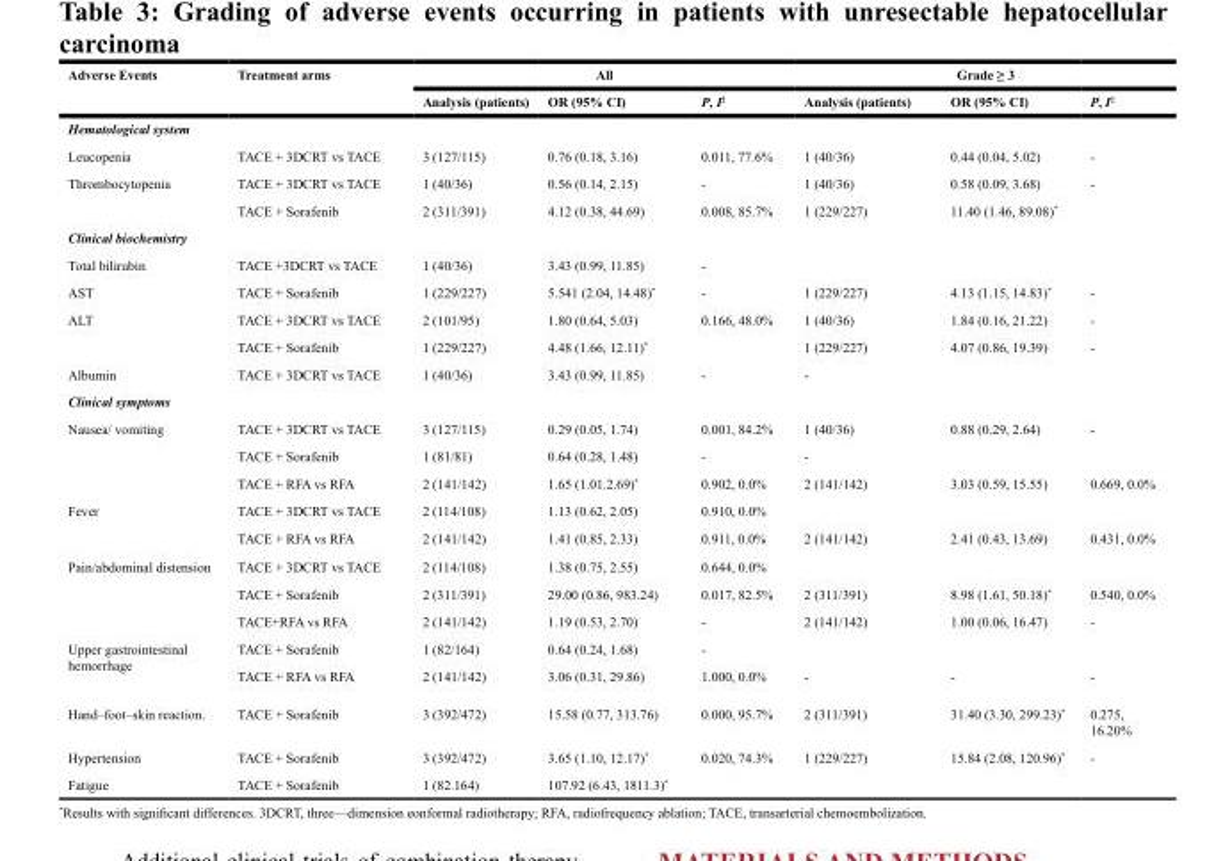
<table><thead><tr><td rowspan="2">Adverse Events</td><td rowspan="2">Treatment arms</td><td colspan="3">All</td><td colspan="3">Grade ≥ 3</td></tr><tr><td>Analysis (patients)</td><td>OR (95% CI)</td><td>P, I<sup>2</sup></td><td>Analysis (patients)</td><td>OR (95% CI)</td><td>P, I<sup>2</sup></td></tr></thead><tbody><tr><td colspan="8">Hematological system</td></tr><tr><td>Leucopenia</td><td>TACE + 3DCRT vs TACE</td><td>3 (127/115)</td><td>0.76 (0.18, 3.16)</td><td>0.011, 77.6%</td><td>1 (40/36)</td><td>0.44 (0.04, 5.02)</td><td>-</td></tr><tr><td rowspan="2">Thrombocytopenia</td><td>TACE + 3DCRT vs TACE</td><td>1 (40/36)</td><td>0.56 (0.14, 2.15)</td><td>-</td><td>1 (40/36)</td><td>0.58 (0.09, 3.68)</td><td>-</td></tr><tr><td>TACE + Sorafenib</td><td>2 (311/391)</td><td>4.12 (0.38, 44.69)</td><td>0.008, 85.7%</td><td>1 (229/227)</td><td>11.40 (1.46, 89.08)*</td><td></td></tr><tr><td colspan="8">Clinical biochemistry</td></tr><tr><td>Total bilirubin</td><td>TACE +3DCRT vs TACE</td><td>1 (40/36)</td><td>3.43 (0.99, 11.85)</td><td>-</td><td></td><td></td><td></td></tr><tr><td>AST</td><td>TACE + Sorafenib</td><td>1 (229/227)</td><td>5.541 (2.04, 14.48)*</td><td>-</td><td>1 (229/227)</td><td>4.13 (1.15, 14.83)*</td><td>-</td></tr><tr><td rowspan="2">ALT</td><td>TACE + 3DCRT vs TACE</td><td>2 (101/95)</td><td>1.80 (0.64, 5.03)</td><td>0.166, 48.0%</td><td>1 (40/36)</td><td>1.84 (0.16, 21.22)</td><td>-</td></tr><tr><td>TACE + Sorafenib</td><td>1 (229/227)</td><td>4.48 (1.66, 12.11)*</td><td></td><td>1 (229/227)</td><td>4.07 (0.86, 19.39)</td><td>-</td></tr><tr><td>Albumin</td><td>TACE + 3DCRT vs TACE</td><td>1 (40/36)</td><td>3.43 (0.99, 11.85)</td><td>-</td><td>-</td><td></td><td></td></tr><tr><td colspan="8">Clinical symptoms</td></tr><tr><td rowspan="3">Nausea/ vomiting</td><td>TACE + 3DCRT vs TACE</td><td>3 (127/115)</td><td>0.29 (0.05, 1.74)</td><td>0.001, 84.2%</td><td>1 (40/36)</td><td>0.88 (0.29, 2.64)</td><td>-</td></tr><tr><td>TACE + Sorafenib</td><td>1 (81/81)</td><td>0.64 (0.28, 1.48)</td><td>-</td><td>-</td><td></td><td></td></tr><tr><td>TACE + RFA vs RFA</td><td>2 (141/142)</td><td>1.65 (1.01.2.69)*</td><td>0.902, 0.0%</td><td>2 (141/142)</td><td>3.03 (0.59, 15.55)</td><td>0.669, 0.0%</td></tr><tr><td rowspan="2">Fever</td><td>TACE + 3DCRT vs TACE</td><td>2 (114/108)</td><td>1.13 (0.62, 2.05)</td><td>0.910, 0.0%</td><td></td><td></td><td></td></tr><tr><td>TACE + RFA vs RFA</td><td>2 (141/142)</td><td>1.41 (0.85, 2.33)</td><td>0.911, 0.0%</td><td>2 (141/142)</td><td>2.41 (0.43, 13.69)</td><td>0.431, 0.0%</td></tr><tr><td rowspan="3">Pain/abdominal distension</td><td>TACE + 3DCRT vs TACE</td><td>2 (114/108)</td><td>1.38 (0.75, 2.55)</td><td>0.644, 0.0%</td><td></td><td></td><td></td></tr><tr><td>TACE + Sorafenib</td><td>2 (311/391)</td><td>29.00 (0.86, 983.24)</td><td>0.017, 82.5%</td><td>2 (311/391)</td><td>8.98 (1.61, 50.18)*</td><td>0.540, 0.0%</td></tr><tr><td>TACE+RFA vs RFA</td><td>2 (141/142)</td><td>1.19 (0.53, 2.70)</td><td>-</td><td>2 (141/142)</td><td>1.00 (0.06, 16.47)</td><td>-</td></tr><tr><td rowspan="2">Upper gastrointestinal hemorrhage</td><td>TACE + Sorafenib</td><td>1 (82/164)</td><td>0.64 (0.24, 1.68)</td><td>-</td><td></td><td></td><td></td></tr><tr><td>TACE + RFA vs RFA</td><td>2 (141/142)</td><td>3.06 (0.31, 29.86)</td><td>1.000, 0.0%</td><td>-</td><td>-</td><td>-</td></tr><tr><td>Hand–foot–skin reaction.</td><td>TACE + Sorafenib</td><td>3 (392/472)</td><td>15.58 (0.77, 313.76)</td><td>0.000, 95.7%</td><td>2 (311/391)</td><td>31.40 (3.30, 299.23)*</td><td>0.275, 16.20%</td></tr><tr><td>Hypertension</td><td>TACE + Sorafenib</td><td>3 (392/472)</td><td>3.65 (1.10, 12.17)*</td><td>0.020, 74.3%</td><td>1 (229/227)</td><td>15.84 (2.08, 120.96)*</td><td>-</td></tr><tr><td>Fatigue</td><td>TACE + Sorafenib</td><td>1 (82.164)</td><td>107.92 (6.43, 1811.3)*</td><td></td><td></td><td></td><td></td></tr></tbody></table>